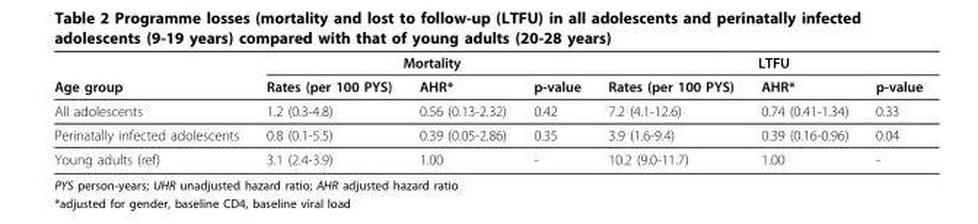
<table><thead><tr><td rowspan="2">Age group</td><td colspan="3">Mortality</td><td colspan="3">LTFU</td></tr><tr><td>Rates (per 100 PYS)</td><td>AHR*</td><td>p-value</td><td>Rates (per 100 PYS)</td><td>AHR*</td><td>p-value</td></tr></thead><tbody><tr><td>All adolescents</td><td>1.2 (0.3-4.8)</td><td>0.56 (0.13-2.32)</td><td>0.42</td><td>7.2 (4.1-12.6)</td><td>0.74 (0.41-1.34)</td><td>0.33</td></tr><tr><td>Perinatally infected adolescents</td><td>0.8 (0.1-5.5)</td><td>0.39 (0.05-2.86)</td><td>0.35</td><td>3.9 (1.6-9.4)</td><td>0.39 (0.16-0.96)</td><td>0.04</td></tr><tr><td>Young adults (ref)</td><td>3.1 (2.4-3.9)</td><td>1.00</td><td>-</td><td>10.2 (9.0-11.7)</td><td>1.00</td><td>-</td></tr></tbody></table>